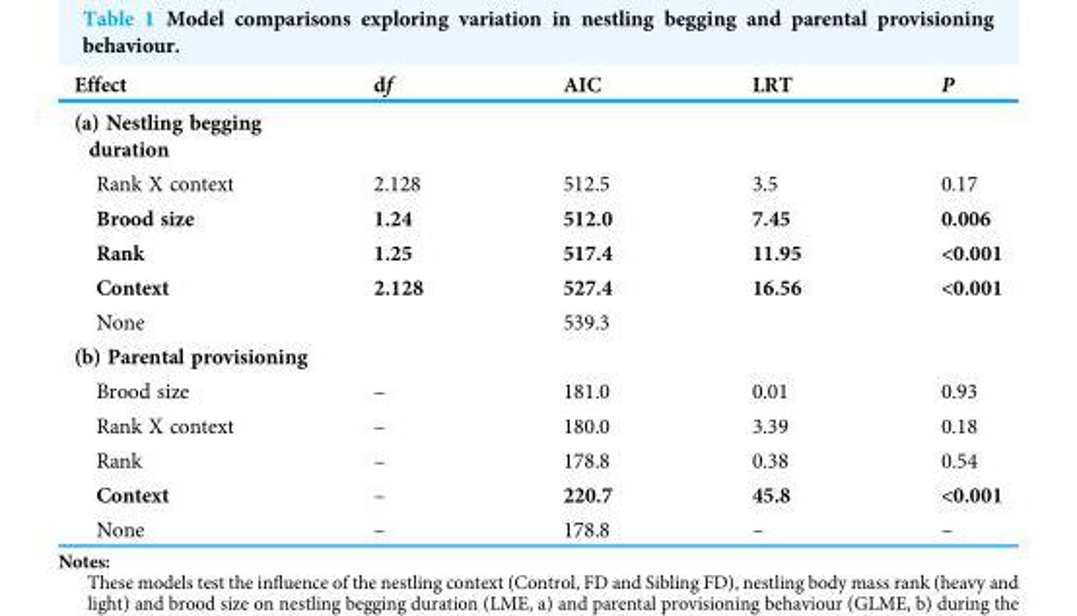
<table><thead><tr><td>Effect</td><td>df</td><td>AIC</td><td>LRT</td><td>P</td></tr></thead><tbody><tr><td colspan="5">(a) Nestling begging duration</td></tr><tr><td>Rank X context</td><td>2.128</td><td>512.5</td><td>3.5</td><td>0.17</td></tr><tr><td>Brood size</td><td>1.24</td><td>512.0</td><td>7.45</td><td>0.006</td></tr><tr><td>Rank</td><td>1.25</td><td>517.4</td><td>11.95</td><td>&lt;0.001</td></tr><tr><td>Context</td><td>2.128</td><td>527.4</td><td>16.56</td><td>&lt;0.001</td></tr><tr><td>None</td><td></td><td>539.3</td><td></td><td></td></tr><tr><td colspan="5">(b) Parental provisioning</td></tr><tr><td>Brood size</td><td>–</td><td>181.0</td><td>0.01</td><td>0.93</td></tr><tr><td>Rank X context</td><td>–</td><td>180.0</td><td>3.39</td><td>0.18</td></tr><tr><td>Rank</td><td>–</td><td>178.8</td><td>0.38</td><td>0.54</td></tr><tr><td>Context</td><td>–</td><td>220.7</td><td>45.8</td><td>&lt;0.001</td></tr><tr><td>None</td><td>–</td><td>178.8</td><td>–</td><td>–</td></tr></tbody></table>